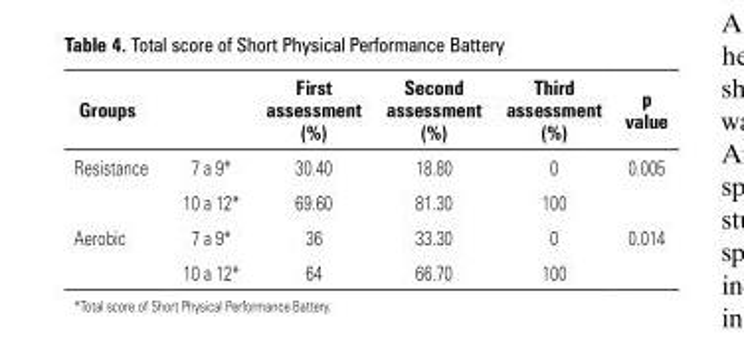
<table><thead><tr><td>Groups</td><td></td><td>First assessment (%)</td><td>Second assessment (%)</td><td>Third assessment (%)</td><td>p value</td></tr></thead><tbody><tr><td rowspan="2">Resistance</td><td>7 a 9*</td><td>30.40</td><td>18.80</td><td>0</td><td>0.005</td></tr><tr><td>10 a 12*</td><td>69.60</td><td>81.30</td><td>100</td><td></td></tr><tr><td rowspan="2">Aerobic</td><td>7 a 9*</td><td>36</td><td>33.30</td><td>0</td><td>0.014</td></tr><tr><td>10 a 12*</td><td>64</td><td>66.70</td><td>100</td><td></td></tr></tbody></table>